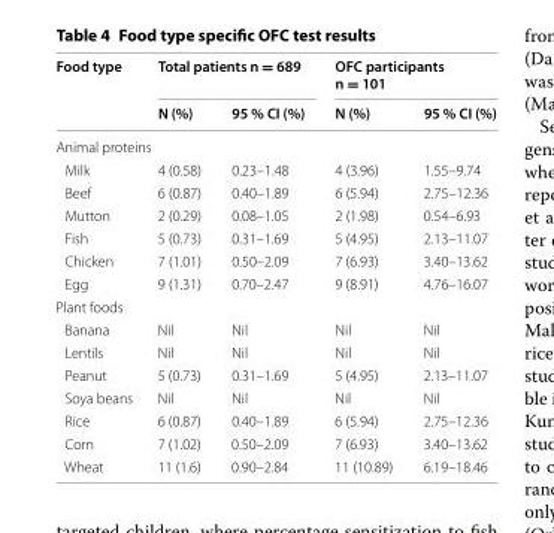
<table><thead><tr><td rowspan="2">Food type</td><td colspan="2">Total patients n = 689</td><td colspan="2">OFC participants n = 101</td></tr><tr><td>N (%)</td><td>95 % CI (%)</td><td>N (%)</td><td>95 % CI (%)</td></tr></thead><tbody><tr><td colspan="5">Animal proteins</td></tr><tr><td>Milk</td><td>4 (0.58)</td><td>0.23–1.48</td><td>4 (3.96)</td><td>1.55–9.74</td></tr><tr><td>Beef</td><td>6 (0.87)</td><td>0.40–1.89</td><td>6 (5.94)</td><td>2.75–12.36</td></tr><tr><td>Mutton</td><td>2 (0.29)</td><td>0.08–1.05</td><td>2 (1.98)</td><td>0.54–6.93</td></tr><tr><td>Fish</td><td>5 (0.73)</td><td>0.31–1.69</td><td>5 (4.95)</td><td>2.13–11.07</td></tr><tr><td>Chicken</td><td>7 (1.01)</td><td>0.50–2.09</td><td>7 (6.93)</td><td>3.40–13.62</td></tr><tr><td>Egg</td><td>9 (1.31)</td><td>0.70–2.47</td><td>9 (8.91)</td><td>4.76–16.07</td></tr><tr><td colspan="5">Plant foods</td></tr><tr><td>Banana</td><td>Nil</td><td>Nil</td><td>Nil</td><td>Nil</td></tr><tr><td>Lentils</td><td>Nil</td><td>Nil</td><td>Nil</td><td>Nil</td></tr><tr><td>Peanut</td><td>5 (0.73)</td><td>0.31–1.69</td><td>5 (4.95)</td><td>2.13–11.07</td></tr><tr><td>Soya beans</td><td>Nil</td><td>Nil</td><td>Nil</td><td>Nil</td></tr><tr><td>Rice</td><td>6 (0.87)</td><td>0.40–1.89</td><td>6 (5.94)</td><td>2.75–12.36</td></tr><tr><td>Corn</td><td>7 (1.02)</td><td>0.50–2.09</td><td>7 (6.93)</td><td>3.40–13.62</td></tr><tr><td>Wheat</td><td>11 (1.6)</td><td>0.90–2.84</td><td>11 (10.89)</td><td>6.19–18.46</td></tr></tbody></table>